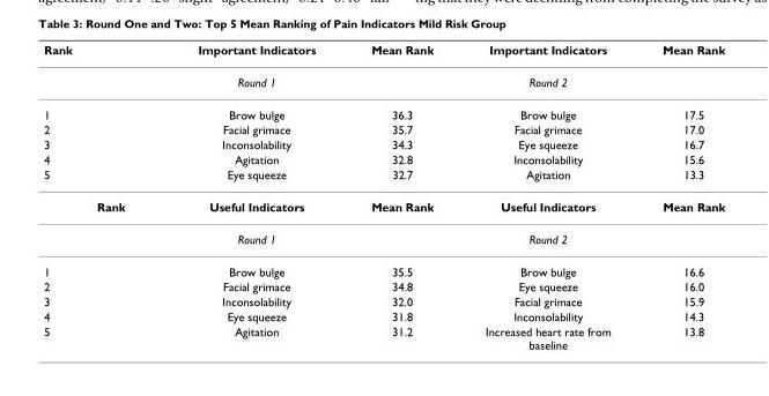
<table><thead><tr><td>Rank</td><td>Important Indicators</td><td>Mean Rank</td><td>Important Indicators</td><td>Mean Rank</td></tr></thead><tbody><tr><td></td><td>Round 1</td><td></td><td>Round 2</td><td></td></tr><tr><td>1</td><td>Brow bulge</td><td>36.3</td><td>Brow bulge</td><td>17.5</td></tr><tr><td>2</td><td>Facial grimace</td><td>35.7</td><td>Facial grimace</td><td>17.0</td></tr><tr><td>3</td><td>Inconsolability</td><td>34.3</td><td>Eye squeeze</td><td>16.7</td></tr><tr><td>4</td><td>Agitation</td><td>32.8</td><td>Inconsolability</td><td>15.6</td></tr><tr><td>5</td><td>Eye squeeze</td><td>32.7</td><td>Agitation</td><td>13.3</td></tr><tr><td rowspan="2">Rank</td><td>Useful Indicators</td><td>Mean Rank</td><td>Useful Indicators</td><td>Mean Rank</td></tr><tr><td>Round 1</td><td></td><td>Round 2</td><td></td></tr><tr><td>1</td><td>Brow bulge</td><td>35.5</td><td>Brow bulge</td><td>16.6</td></tr><tr><td>2</td><td>Facial grimace</td><td>34.8</td><td>Eye squeeze</td><td>16.0</td></tr><tr><td>3</td><td>Inconsolability</td><td>32.0</td><td>Facial grimace</td><td>15.9</td></tr><tr><td>4</td><td>Eye squeeze</td><td>31.8</td><td>Inconsolability</td><td>14.3</td></tr><tr><td>5</td><td>Agitation</td><td>31.2</td><td>Increased heart rate from baseline</td><td>13.8</td></tr></tbody></table>